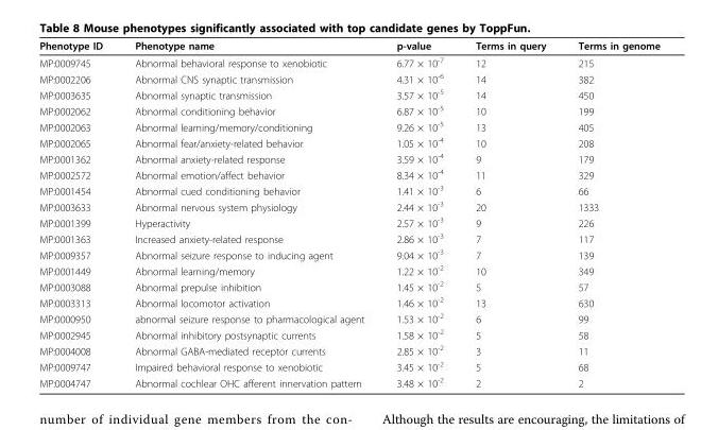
<table><thead><tr><td>Phenotype ID</td><td>Phenotype name</td><td>p-value</td><td>Terms in query</td><td>Terms in genome</td></tr></thead><tbody><tr><td>MP:0009745</td><td>Abnormal behavioral response to xenobiotic</td><td>6.77 × 10<sup>-7</sup></td><td>12</td><td>215</td></tr><tr><td>MP:0002206</td><td>Abnormal CNS synaptic transmission</td><td>4.31 × 10<sup>-6</sup></td><td>14</td><td>382</td></tr><tr><td>MP:0003635</td><td>Abnormal synaptic transmission</td><td>3.57 × 10<sup>-5</sup></td><td>14</td><td>450</td></tr><tr><td>MP:0002062</td><td>Abnormal conditioning behavior</td><td>6.87 × 10<sup>-5</sup></td><td>10</td><td>199</td></tr><tr><td>MP:0002063</td><td>Abnormal learning/memory/conditioning</td><td>9.26 × 10<sup>-5</sup></td><td>13</td><td>405</td></tr><tr><td>MP:0002065</td><td>Abnormal fear/anxiety-related behavior</td><td>1.05 × 10<sup>-4</sup></td><td>10</td><td>208</td></tr><tr><td>MP:0001362</td><td>Abnormal anxiety-related response</td><td>3.59 × 10<sup>-4</sup></td><td>9</td><td>179</td></tr><tr><td>MP:0002572</td><td>Abnormal emotion/affect behavior</td><td>8.34 × 10<sup>-4</sup></td><td>11</td><td>329</td></tr><tr><td>MP:0001454</td><td>Abnormal cued conditioning behavior</td><td>1.41 × 10<sup>-3</sup></td><td>6</td><td>66</td></tr><tr><td>MP:0003633</td><td>Abnormal nervous system physiology</td><td>2.44 × 10<sup>-3</sup></td><td>20</td><td>1333</td></tr><tr><td>MP:0001399</td><td>Hyperactivity</td><td>2.57 × 10<sup>-3</sup></td><td>9</td><td>226</td></tr><tr><td>MP:0001363</td><td>Increased anxiety-related response</td><td>2.86 × 10<sup>-3</sup></td><td>7</td><td>117</td></tr><tr><td>MP:0009357</td><td>Abnormal seizure response to inducing agent</td><td>9.04 × 10<sup>-3</sup></td><td>7</td><td>139</td></tr><tr><td>MP:0001449</td><td>Abnormal learning/memory</td><td>1.22 × 10<sup>-2</sup></td><td>10</td><td>349</td></tr><tr><td>MP:0003088</td><td>Abnormal prepulse inhibition</td><td>1.45 × 10<sup>-2</sup></td><td>5</td><td>57</td></tr><tr><td>MP:0003313</td><td>Abnormal locomotor activation</td><td>1.46 × 10<sup>-2</sup></td><td>13</td><td>630</td></tr><tr><td>MP:0000950</td><td>abnormal seizure response to pharmacological agent</td><td>1.53 × 10<sup>-2</sup></td><td>6</td><td>99</td></tr><tr><td>MP:0002945</td><td>Abnormal inhibitory postsynaptic currents</td><td>1.58 × 10<sup>-2</sup></td><td>5</td><td>58</td></tr><tr><td>MP:0004008</td><td>Abnormal GABA-mediated receptor currents</td><td>2.85 × 10<sup>-2</sup></td><td>3</td><td>11</td></tr><tr><td>MP:0009747</td><td>Impaired behavioral response to xenobiotic</td><td>3.45 × 10<sup>-2</sup></td><td>5</td><td>68</td></tr><tr><td>MP:0004747</td><td>Abnormal cochlear OHC afferent innervation pattern</td><td>3.48 × 10<sup>-2</sup></td><td>2</td><td>2</td></tr></tbody></table>